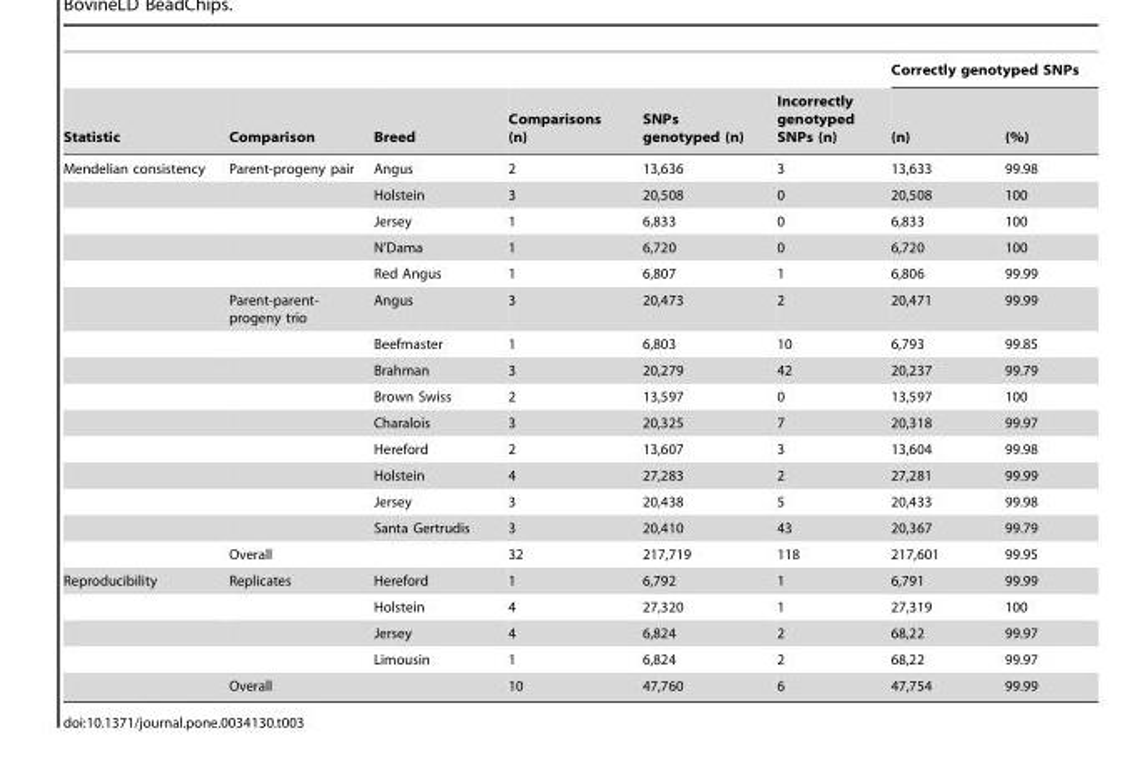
<table><thead><tr><td rowspan="2">Statistic</td><td rowspan="2">Comparison</td><td rowspan="2">Breed</td><td rowspan="2">Comparisons (n)</td><td rowspan="2">SNPs genotyped (n)</td><td rowspan="2">Incorrectly genotyped SNPs (n)</td><td colspan="2">Correctly genotyped SNPs</td></tr><tr><td>(n)</td><td>(%)</td></tr></thead><tbody><tr><td rowspan="15">Mendelian consistency</td><td>Parent-progeny pair</td><td>Angus</td><td>2</td><td>13,636</td><td>3</td><td>13,633</td><td>99.98</td></tr><tr><td></td><td>Holstein</td><td>3</td><td>20,508</td><td>0</td><td>20,508</td><td>100</td></tr><tr><td></td><td>Jersey</td><td>1</td><td>6,833</td><td>0</td><td>6,833</td><td>100</td></tr><tr><td></td><td>N’Dama</td><td>1</td><td>6,720</td><td>0</td><td>6,720</td><td>100</td></tr><tr><td></td><td>Red Angus</td><td>1</td><td>6,807</td><td>1</td><td>6,806</td><td>99.99</td></tr><tr><td>Parent-parent- progeny trio</td><td>Angus</td><td>3</td><td>20,473</td><td>2</td><td>20,471</td><td>99.99</td></tr><tr><td></td><td>Beefmaster</td><td>1</td><td>6,803</td><td>10</td><td>6,793</td><td>99.85</td></tr><tr><td></td><td>Brahman</td><td>3</td><td>20,279</td><td>42</td><td>20,237</td><td>99.79</td></tr><tr><td></td><td>Brown Swiss</td><td>2</td><td>13,597</td><td>0</td><td>13,597</td><td>100</td></tr><tr><td></td><td>Charalois</td><td>3</td><td>20,325</td><td>7</td><td>20,318</td><td>99.97</td></tr><tr><td></td><td>Hereford</td><td>2</td><td>13,607</td><td>3</td><td>13,604</td><td>99.98</td></tr><tr><td></td><td>Holstein</td><td>4</td><td>27,283</td><td>2</td><td>27,281</td><td>99.99</td></tr><tr><td></td><td>Jersey</td><td>3</td><td>20,438</td><td>5</td><td>20,433</td><td>99.98</td></tr><tr><td></td><td>Santa Gertrudis</td><td>3</td><td>20,410</td><td>43</td><td>20,367</td><td>99.79</td></tr><tr><td>Overall</td><td></td><td>32</td><td>217,719</td><td>118</td><td>217,601</td><td>99.95</td></tr><tr><td rowspan="5">Reproducibility</td><td>Replicates</td><td>Hereford</td><td>1</td><td>6,792</td><td>1</td><td>6,791</td><td>99.99</td></tr><tr><td></td><td>Holstein</td><td>4</td><td>27,320</td><td>1</td><td>27,319</td><td>100</td></tr><tr><td></td><td>Jersey</td><td>4</td><td>6,824</td><td>2</td><td>68,22</td><td>99.97</td></tr><tr><td></td><td>Limousin</td><td>1</td><td>6,824</td><td>2</td><td>68,22</td><td>99.97</td></tr><tr><td>Overall</td><td></td><td>10</td><td>47,760</td><td>6</td><td>47,754</td><td>99.99</td></tr></tbody></table>